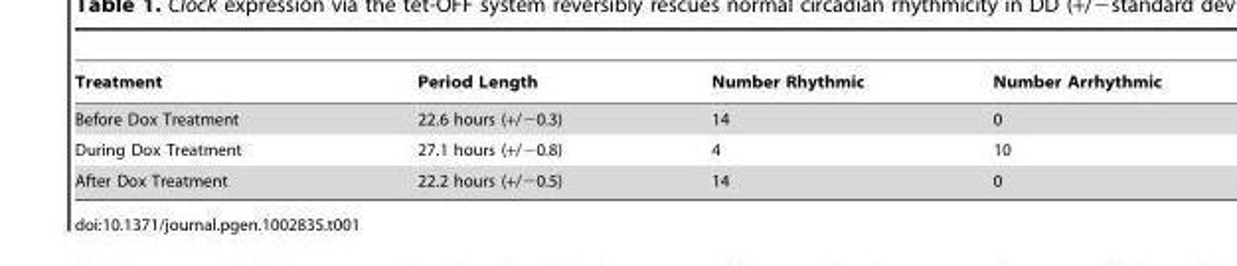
<table><thead><tr><td>Treatment</td><td>Period Length</td><td>Number Rhythmic</td><td>Number Arrhythmic</td></tr></thead><tbody><tr><td>Before Dox Treatment</td><td>22.6 hours (+/−0.3)</td><td>14</td><td>0</td></tr><tr><td>During Dox Treatment</td><td>27.1 hours (+/−0.8)</td><td>4</td><td>10</td></tr><tr><td>After Dox Treatment</td><td>22.2 hours (+/−0.5)</td><td>14</td><td>0</td></tr></tbody></table>